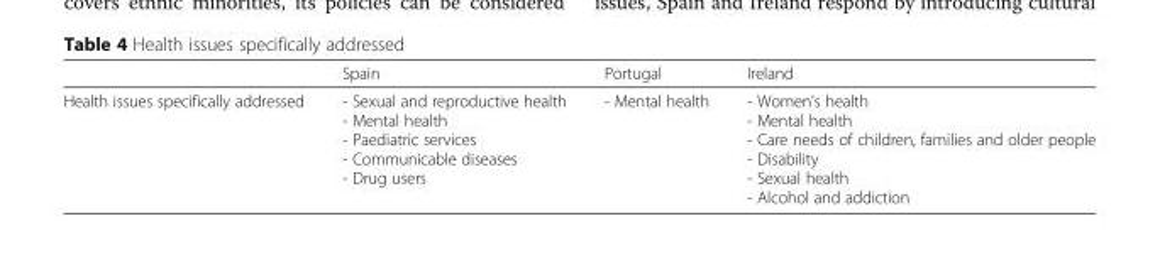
<table><thead><tr><td></td><td>Spain</td><td>Portugal</td><td>Ireland</td></tr></thead><tbody><tr><td>Health issues specifically addressed</td><td>- Sexual and reproductive health - Mental health - Paediatric services - Communicable diseases - Drug users</td><td>- Mental health</td><td>- Women’s health - Mental health - Care needs of children, families and older people - Disability - Sexual health - Alcohol and addiction</td></tr></tbody></table>